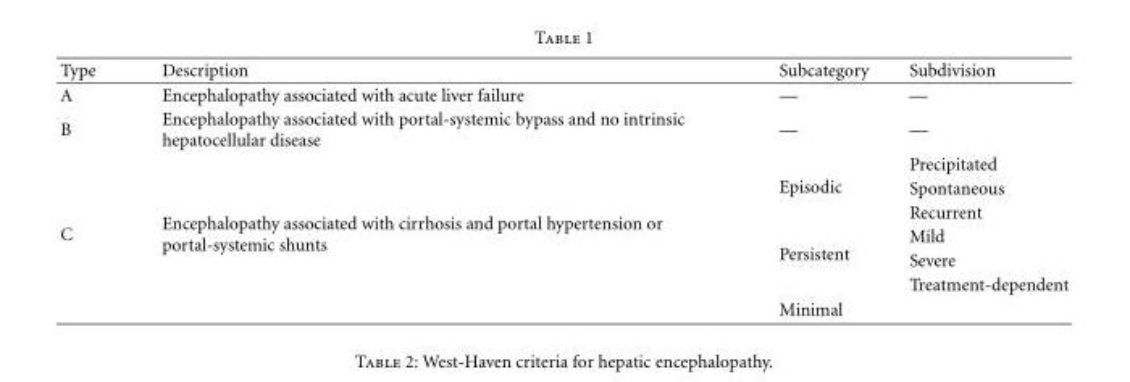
<table><thead><tr><td>Type</td><td>Description</td><td>Subcategory</td><td>Subdivision</td></tr></thead><tbody><tr><td>A</td><td>Encephalopathy associated with acute liver failure</td><td>—</td><td>—</td></tr><tr><td>B</td><td>Encephalopathy associated with portal-systemic bypass and no intrinsic hepatocellular disease</td><td>—</td><td>—</td></tr><tr><td rowspan="7">C</td><td rowspan="7">Encephalopathy associated with cirrhosis and portal hypertension or portal-systemic shunts</td><td rowspan="3">Episodic</td><td>Precipitated</td></tr><tr><td>Spontaneous</td></tr><tr><td>Recurrent</td></tr><tr><td rowspan="3">Persistent</td><td>Mild</td></tr><tr><td>Severe</td></tr><tr><td>Treatment-dependent</td></tr><tr><td>Minimal</td><td></td></tr></tbody></table>